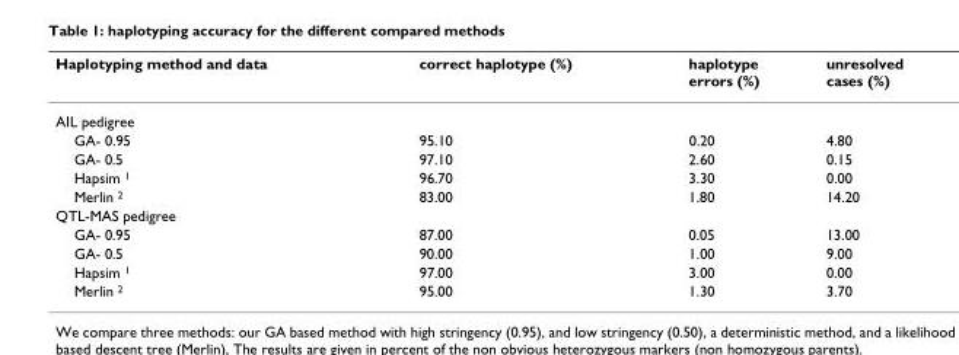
<table><thead><tr><td>Haplotyping method and data</td><td>correct haplotype (%)</td><td>haplotype errors (%)</td><td>unresolved cases (%)</td></tr></thead><tbody><tr><td colspan="4">AIL pedigree</td></tr><tr><td>GA- 0.95</td><td>95.10</td><td>0.20</td><td>4.80</td></tr><tr><td>GA- 0.5</td><td>97.10</td><td>2.60</td><td>0.15</td></tr><tr><td>Hapsim <sup>1</sup></td><td>96.70</td><td>3.30</td><td>0.00</td></tr><tr><td>Merlin <sup>2</sup></td><td>83.00</td><td>1.80</td><td>14.20</td></tr><tr><td colspan="4">QTL-MAS pedigree</td></tr><tr><td>GA- 0.95</td><td>87.00</td><td>0.05</td><td>13.00</td></tr><tr><td>GA- 0.5</td><td>90.00</td><td>1.00</td><td>9.00</td></tr><tr><td>Hapsim <sup>1</sup></td><td>97.00</td><td>3.00</td><td>0.00</td></tr><tr><td>Merlin <sup>2</sup></td><td>95.00</td><td>1.30</td><td>3.70</td></tr></tbody></table>